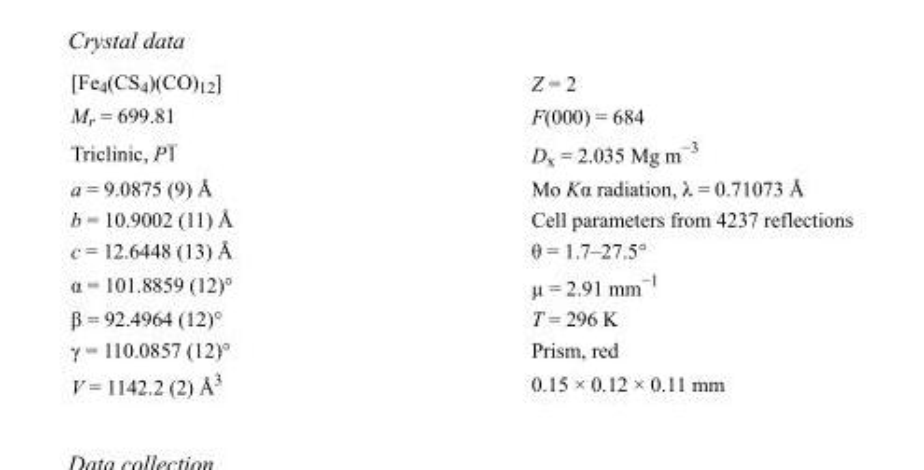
<table><tbody><tr><td>[Fe<sub>4</sub>(CS<sub>4</sub>)(CO)<sub>12</sub>]</td><td>Z = 2</td></tr><tr><td>M<sub>r</sub> = 699.81</td><td>F(000) = 684</td></tr><tr><td>Triclinic, P1</td><td>D<sub>x</sub> = 2.035 Mg m<sup>−3</sup></td></tr><tr><td>a = 9.0875 (9) Å</td><td>Mo Kα radiation, λ = 0.71073 Å</td></tr><tr><td>b = 10.9002 (11) Å</td><td>Cell parameters from 4237 reflections</td></tr><tr><td>c = 12.6448 (13) Å</td><td>θ = 1.7–27.5°</td></tr><tr><td>α = 101.8859 (12)°</td><td>µ = 2.91 mm<sup>−1</sup></td></tr><tr><td>β = 92.4964 (12)°</td><td>T = 296 K</td></tr><tr><td>γ = 110.0857 (12)°</td><td>Prism, red</td></tr><tr><td>V = 1142.2 (2) Å<sup>3</sup></td><td>0.15 × 0.12 × 0.11 mm</td></tr></tbody></table>